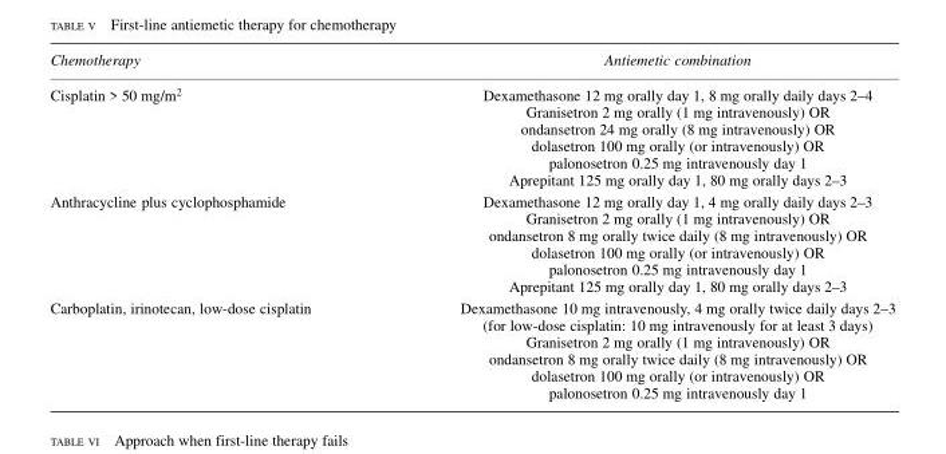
<table><thead><tr><td>Chemotherapy</td><td>Antiemetic combination</td></tr></thead><tbody><tr><td>Cisplatin &gt; 50 mg/m<sup>2</sup></td><td>Dexamethasone 12 mg orally day 1, 8 mg orally daily days 2–4 Granisetron 2 mg orally (1 mg intravenously) OR ondansetron 24 mg orally (8 mg intravenously) OR dolasetron 100 mg orally (or intravenously) OR palonosetron 0.25 mg intravenously day 1 Aprepitant 125 mg orally day 1, 80 mg orally days 2–3</td></tr><tr><td>Anthracycline plus cyclophosphamide</td><td>Dexamethasone 12 mg orally day 1, 4 mg orally daily days 2–3 Granisetron 2 mg orally (1 mg intravenously) OR ondansetron 8 mg orally twice daily (8 mg intravenously) OR dolasetron 100 mg orally (or intravenously) OR palonosetron 0.25 mg intravenously day 1 Aprepitant 125 mg orally day 1, 80 mg orally days 2–3</td></tr><tr><td>Carboplatin, irinotecan, low-dose cisplatin</td><td>Dexamethasone 10 mg intravenously, 4 mg orally twice daily days 2–3 (for low-dose cisplatin: 10 mg intravenously for at least 3 days) Granisetron 2 mg orally (1 mg intravenously) OR ondansetron 8 mg orally twice daily (8 mg intravenously) OR dolasetron 100 mg orally (or intravenously) OR palonosetron 0.25 mg intravenously day 1</td></tr></tbody></table>